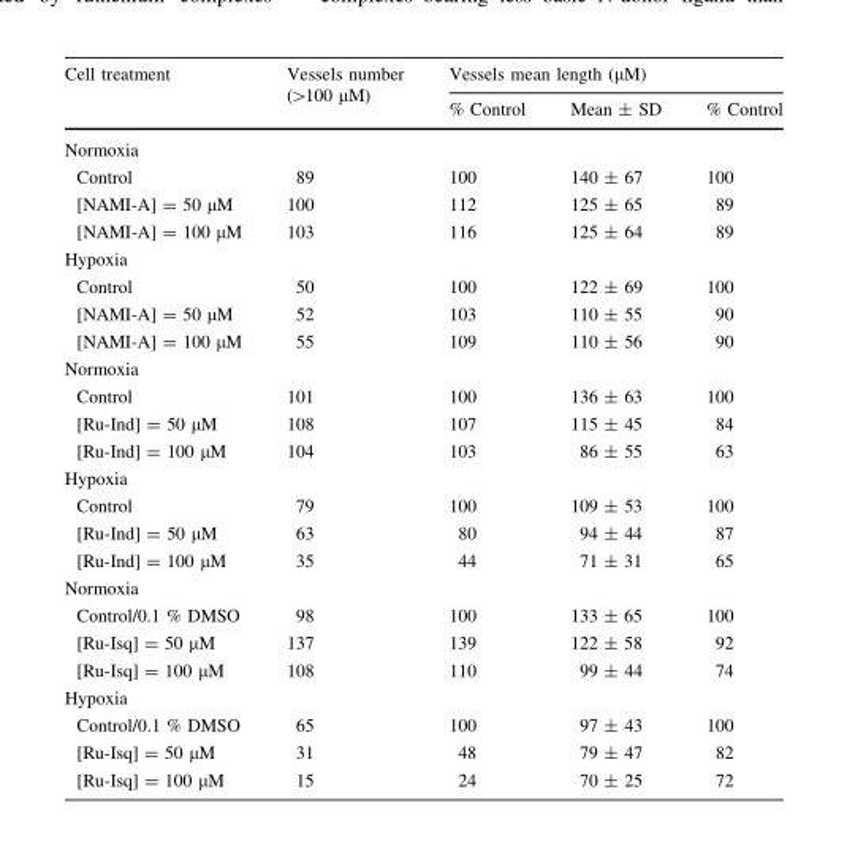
<table><thead><tr><td rowspan="2">Cell treatment</td><td rowspan="2">Vessels number (&gt;100 μM)</td><td colspan="3">Vessels mean length (μM)</td></tr><tr><td>% Control</td><td>Mean ± SD</td><td>% Control</td></tr></thead><tbody><tr><td colspan="5">Normoxia</td></tr><tr><td>Control</td><td>89</td><td>100</td><td>140 ± 67</td><td>100</td></tr><tr><td>[NAMI-A] = 50 μM</td><td>100</td><td>112</td><td>125 ± 65</td><td>89</td></tr><tr><td>[NAMI-A] = 100 μM</td><td>103</td><td>116</td><td>125 ± 64</td><td>89</td></tr><tr><td colspan="5">Hypoxia</td></tr><tr><td>Control</td><td>50</td><td>100</td><td>122 ± 69</td><td>100</td></tr><tr><td>[NAMI-A] = 50 μM</td><td>52</td><td>103</td><td>110 ± 55</td><td>90</td></tr><tr><td>[NAMI-A] = 100 μM</td><td>55</td><td>109</td><td>110 ± 56</td><td>90</td></tr><tr><td colspan="5">Normoxia</td></tr><tr><td>Control</td><td>101</td><td>100</td><td>136 ± 63</td><td>100</td></tr><tr><td>[Ru-Ind] = 50 μM</td><td>108</td><td>107</td><td>115 ± 45</td><td>84</td></tr><tr><td>[Ru-Ind] = 100 μM</td><td>104</td><td>103</td><td>86 ± 55</td><td>63</td></tr><tr><td colspan="5">Hypoxia</td></tr><tr><td>Control</td><td>79</td><td>100</td><td>109 ± 53</td><td>100</td></tr><tr><td>[Ru-Ind] = 50 μM</td><td>63</td><td>80</td><td>94 ± 44</td><td>87</td></tr><tr><td>[Ru-Ind] = 100 μM</td><td>35</td><td>44</td><td>71 ± 31</td><td>65</td></tr><tr><td colspan="5">Normoxia</td></tr><tr><td>Control/0.1 % DMSO</td><td>98</td><td>100</td><td>133 ± 65</td><td>100</td></tr><tr><td>[Ru-Isq] = 50 μM</td><td>137</td><td>139</td><td>122 ± 58</td><td>92</td></tr><tr><td>[Ru-Isq] = 100 μM</td><td>108</td><td>110</td><td>99 ± 44</td><td>74</td></tr><tr><td colspan="5">Hypoxia</td></tr><tr><td>Control/0.1 % DMSO</td><td>65</td><td>100</td><td>97 ± 43</td><td>100</td></tr><tr><td>[Ru-Isq] = 50 μM</td><td>31</td><td>48</td><td>79 ± 47</td><td>82</td></tr><tr><td>[Ru-Isq] = 100 μM</td><td>15</td><td>24</td><td>70 ± 25</td><td>72</td></tr></tbody></table>